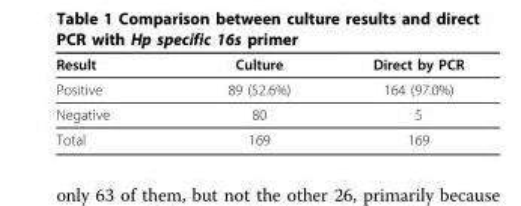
<table><thead><tr><td>Result</td><td>Culture</td><td>Direct by PCR</td></tr></thead><tbody><tr><td>Positive</td><td>89 (52.6%)</td><td>164 (97.0%)</td></tr><tr><td>Negative</td><td>80</td><td>5</td></tr><tr><td>Total</td><td>169</td><td>169</td></tr></tbody></table>